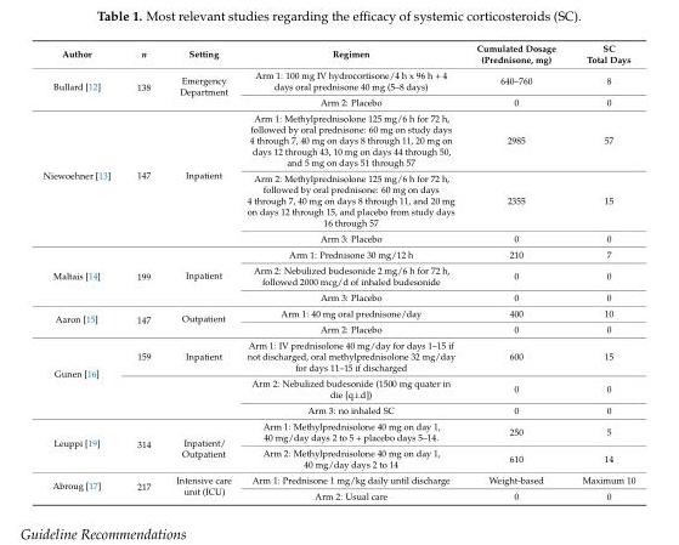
<table><thead><tr><td>Author</td><td>n</td><td>Setting</td><td>Regimen</td><td>Cumulated Dosage (Prednisone, mg)</td><td>SC Total Days</td></tr></thead><tbody><tr><td rowspan="2">Bullard [12]</td><td rowspan="2">138</td><td rowspan="2">Emergency Department</td><td>Arm 1: 100 mg IV hydrocortisone/4 h x 96 h + 4 days oral prednisone 40 mg (5–8 days)</td><td>640–760</td><td>8</td></tr><tr><td>Arm 2: Placebo</td><td>0</td><td>0</td></tr><tr><td rowspan="3">Niewoehner [13]</td><td rowspan="3">147</td><td rowspan="3">Inpatient</td><td>Arm 1: Methylprednisolone 125 mg/6 h for 72 h, followed by oral prednisone: 60 mg on study days 4 through 7, 40 mg on days 8 through 11, 20 mg on days 12 through 43, 10 mg on days 44 through 50, and 5 mg on days 51 through 57</td><td>2985</td><td>57</td></tr><tr><td>Arm 2: Methylprednisolone 125 mg/6 h for 72 h, followed by oral prednisone: 60 mg on days 4 through 7, 40 mg on days 8 through 11, and 20 mg on days 12 through 15, and placebo from study days 16 through 57</td><td>2355</td><td>15</td></tr><tr><td>Arm 3: Placebo</td><td>0</td><td>0</td></tr><tr><td rowspan="3">Maltais [14]</td><td rowspan="3">199</td><td rowspan="3">Inpatient</td><td>Arm 1: Prednisone 30 mg/12 h</td><td>210</td><td>7</td></tr><tr><td>Arm 2: Nebulized budesonide 2 mg/6 h for 72 h, followed 2000 mcg/d of inhaled budesonide</td><td>0</td><td>0</td></tr><tr><td>Arm 3: Placebo</td><td>0</td><td>0</td></tr><tr><td rowspan="2">Aaron [15]</td><td rowspan="2">147</td><td rowspan="2">Outpatient</td><td>Arm 1: 40 mg oral prednisone/day</td><td>400</td><td>10</td></tr><tr><td>Arm 2: Placebo</td><td>0</td><td>0</td></tr><tr><td rowspan="3">Gunen [16]</td><td>159</td><td>Inpatient</td><td>Arm 1: IV prednisolone 40 mg/day for days 1–15 if not discharged, oral methylprednisolone 32 mg/day for days 11–15 if discharged</td><td>600</td><td>15</td></tr><tr><td rowspan="2"></td><td rowspan="2"></td><td>Arm 2: Nebulized budesonide (1500 mg quater in die [q.i.d])</td><td>0</td><td>0</td></tr><tr><td>Arm 3: no inhaled SC</td><td>0</td><td>0</td></tr><tr><td rowspan="2">Leuppi [19]</td><td rowspan="2">314</td><td rowspan="2">Inpatient/ Outpatient</td><td>Arm 1: Methylprednisolone 40 mg on day 1, 40 mg/day days 2 to 5 + placebo days 5–14.</td><td>250</td><td>5</td></tr><tr><td>Arm 2: Methylprednisolone 40 mg on day 1, 40 mg/day days 2 to 14</td><td>610</td><td>14</td></tr><tr><td rowspan="2">Abroug [17]</td><td rowspan="2">217</td><td rowspan="2">Intensive care unit (ICU)</td><td>Arm 1: Prednisone 1 mg/kg daily until discharge</td><td>Weight-based</td><td>Maximum 10</td></tr><tr><td>Arm 2: Usual care</td><td>0</td><td>0</td></tr></tbody></table>